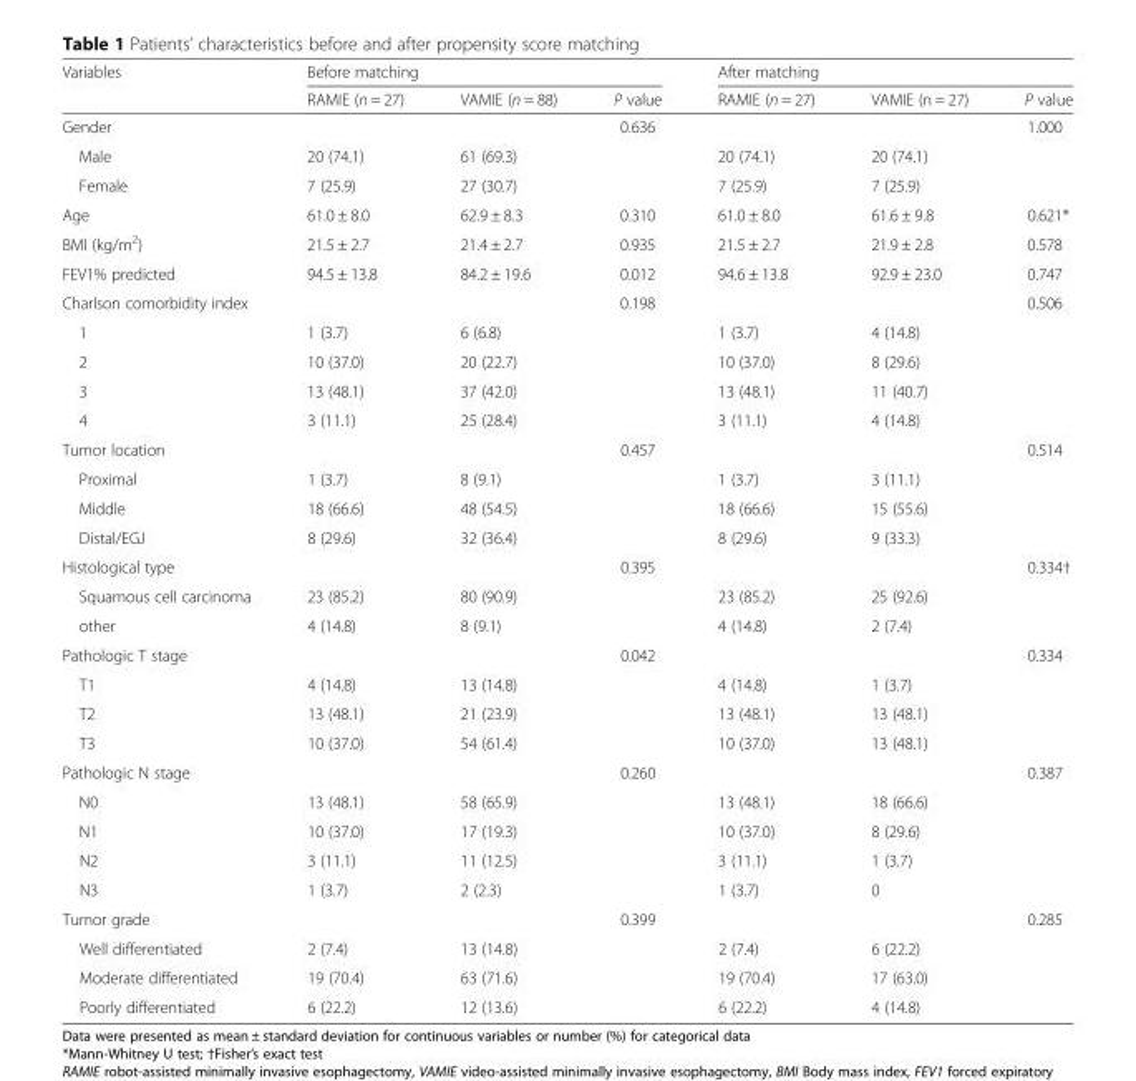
<table><thead><tr><td rowspan="2">Variables</td><td colspan="3">Before matching</td><td colspan="3">After matching</td></tr><tr><td>RAMIE (n = 27)</td><td>VAMIE (n = 88)</td><td>P value</td><td>RAMIE (n = 27)</td><td>VAMIE (n = 27)</td><td>P value</td></tr></thead><tbody><tr><td>Gender</td><td></td><td></td><td>0.636</td><td></td><td></td><td>1.000</td></tr><tr><td>Male</td><td>20 (74.1)</td><td>61 (69.3)</td><td></td><td>20 (74.1)</td><td>20 (74.1)</td><td></td></tr><tr><td>Female</td><td>7 (25.9)</td><td>27 (30.7)</td><td></td><td>7 (25.9)</td><td>7 (25.9)</td><td></td></tr><tr><td>Age</td><td>61.0 ± 8.0</td><td>62.9 ± 8.3</td><td>0.310</td><td>61.0 ± 8.0</td><td>61.6 ± 9.8</td><td>0.621*</td></tr><tr><td>BMI (kg/m<sup>2</sup>)</td><td>21.5 ± 2.7</td><td>21.4 ± 2.7</td><td>0.935</td><td>21.5 ± 2.7</td><td>21.9 ± 2.8</td><td>0.578</td></tr><tr><td>FEV1% predicted</td><td>94.5 ± 13.8</td><td>84.2 ± 19.6</td><td>0.012</td><td>94.6 ± 13.8</td><td>92.9 ± 23.0</td><td>0.747</td></tr><tr><td>Charlson comorbidity index</td><td></td><td></td><td>0.198</td><td></td><td></td><td>0.506</td></tr><tr><td>1</td><td>1 (3.7)</td><td>6 (6.8)</td><td></td><td>1 (3.7)</td><td>4 (14.8)</td><td></td></tr><tr><td>2</td><td>10 (37.0)</td><td>20 (22.7)</td><td></td><td>10 (37.0)</td><td>8 (29.6)</td><td></td></tr><tr><td>3</td><td>13 (48.1)</td><td>37 (42.0)</td><td></td><td>13 (48.1)</td><td>11 (40.7)</td><td></td></tr><tr><td>4</td><td>3 (11.1)</td><td>25 (28.4)</td><td></td><td>3 (11.1)</td><td>4 (14.8)</td><td></td></tr><tr><td>Tumor location</td><td></td><td></td><td>0.457</td><td></td><td></td><td>0.514</td></tr><tr><td>Proximal</td><td>1 (3.7)</td><td>8 (9.1)</td><td></td><td>1 (3.7)</td><td>3 (11.1)</td><td></td></tr><tr><td>Middle</td><td>18 (66.6)</td><td>48 (54.5)</td><td></td><td>18 (66.6)</td><td>15 (55.6)</td><td></td></tr><tr><td>Distal/EGJ</td><td>8 (29.6)</td><td>32 (36.4)</td><td></td><td>8 (29.6)</td><td>9 (33.3)</td><td></td></tr><tr><td>Histological type</td><td></td><td></td><td>0.395</td><td></td><td></td><td>0.334†</td></tr><tr><td>Squamous cell carcinoma</td><td>23 (85.2)</td><td>80 (90.9)</td><td></td><td>23 (85.2)</td><td>25 (92.6)</td><td></td></tr><tr><td>other</td><td>4 (14.8)</td><td>8 (9.1)</td><td></td><td>4 (14.8)</td><td>2 (7.4)</td><td></td></tr><tr><td>Pathologic T stage</td><td></td><td></td><td>0.042</td><td></td><td></td><td>0.334</td></tr><tr><td>T1</td><td>4 (14.8)</td><td>13 (14.8)</td><td></td><td>4 (14.8)</td><td>1 (3.7)</td><td></td></tr><tr><td>T2</td><td>13 (48.1)</td><td>21 (23.9)</td><td></td><td>13 (48.1)</td><td>13 (48.1)</td><td></td></tr><tr><td>T3</td><td>10 (37.0)</td><td>54 (61.4)</td><td></td><td>10 (37.0)</td><td>13 (48.1)</td><td></td></tr><tr><td>Pathologic N stage</td><td></td><td></td><td>0.260</td><td></td><td></td><td>0.387</td></tr><tr><td>N0</td><td>13 (48.1)</td><td>58 (65.9)</td><td></td><td>13 (48.1)</td><td>18 (66.6)</td><td></td></tr><tr><td>N1</td><td>10 (37.0)</td><td>17 (19.3)</td><td></td><td>10 (37.0)</td><td>8 (29.6)</td><td></td></tr><tr><td>N2</td><td>3 (11.1)</td><td>11 (12.5)</td><td></td><td>3 (11.1)</td><td>1 (3.7)</td><td></td></tr><tr><td>N3</td><td>1 (3.7)</td><td>2 (2.3)</td><td></td><td>1 (3.7)</td><td>0</td><td></td></tr><tr><td>Tumor grade</td><td></td><td></td><td>0.399</td><td></td><td></td><td>0.285</td></tr><tr><td>Well differentiated</td><td>2 (7.4)</td><td>13 (14.8)</td><td></td><td>2 (7.4)</td><td>6 (22.2)</td><td></td></tr><tr><td>Moderate differentiated</td><td>19 (70.4)</td><td>63 (71.6)</td><td></td><td>19 (70.4)</td><td>17 (63.0)</td><td></td></tr><tr><td>Poorly differentiated</td><td>6 (22.2)</td><td>12 (13.6)</td><td></td><td>6 (22.2)</td><td>4 (14.8)</td><td></td></tr></tbody></table>